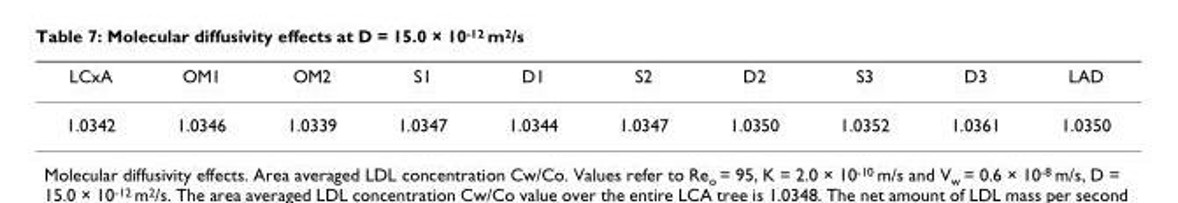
<table><thead><tr><td>LCxA</td><td>OM1</td><td>OM2</td><td>S1</td><td>D1</td><td>S2</td><td>D2</td><td>S3</td><td>D3</td><td>LAD</td></tr></thead><tbody><tr><td>1.0342</td><td>1.0346</td><td>1.0339</td><td>1.0347</td><td>1.0344</td><td>1.0347</td><td>1.0350</td><td>1.0352</td><td>1.0361</td><td>1.0350</td></tr></tbody></table>